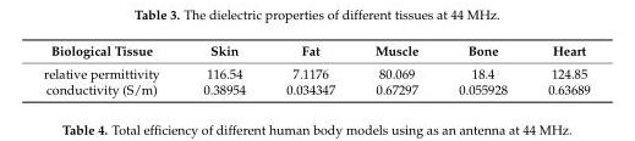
<table><thead><tr><td>Biological Tissue</td><td>Skin</td><td>Fat</td><td>Muscle</td><td>Bone</td><td>Heart</td></tr></thead><tbody><tr><td>relative permittivity</td><td>116.54</td><td>7.1176</td><td>80.069</td><td>18.4</td><td>124.85</td></tr><tr><td>conductivity (S/m)</td><td>0.38954</td><td>0.034347</td><td>0.67297</td><td>0.055928</td><td>0.63689</td></tr></tbody></table>